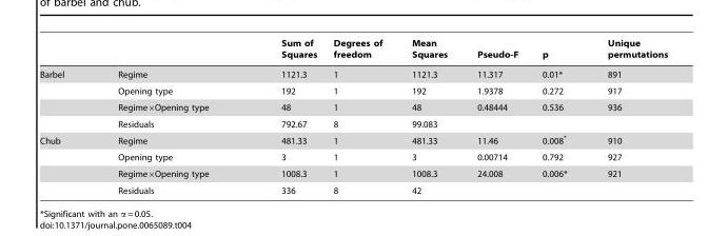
<table><thead><tr><td></td><td></td><td>Sum of Squares</td><td>Degrees of freedom</td><td>Mean Squares</td><td>Pseudo-F</td><td>p</td><td>Unique permutations</td></tr></thead><tbody><tr><td rowspan="4">Barbel</td><td>Regime</td><td>1121.3</td><td>1</td><td>1121.3</td><td>11.317</td><td>0.01*</td><td>891</td></tr><tr><td>Opening type</td><td>192</td><td>1</td><td>192</td><td>1.9378</td><td>0.272</td><td>917</td></tr><tr><td>Regime×Opening type</td><td>48</td><td>1</td><td>48</td><td>0.48444</td><td>0.536</td><td>936</td></tr><tr><td>Residuals</td><td>792.67</td><td>8</td><td>99.083</td><td></td><td></td><td></td></tr><tr><td rowspan="4">Chub</td><td>Regime</td><td>481.33</td><td>1</td><td>481.33</td><td>11.46</td><td>0.008*</td><td>910</td></tr><tr><td>Opening type</td><td>3</td><td>1</td><td>3</td><td>0.00714</td><td>0.792</td><td>927</td></tr><tr><td>Regime×Opening type</td><td>1008.3</td><td>1</td><td>1008.3</td><td>24.008</td><td>0.006*</td><td>921</td></tr><tr><td>Residuals</td><td>336</td><td>8</td><td>42</td><td></td><td></td><td></td></tr></tbody></table>